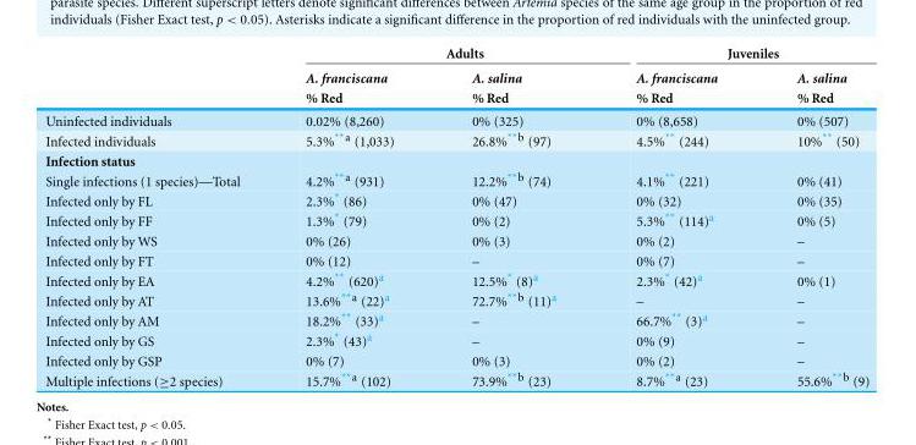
<table><thead><tr><td rowspan="3"></td><td colspan="2">Adults</td><td colspan="2">Juveniles</td></tr><tr><td rowspan="2">A. franciscana % Red</td><td rowspan="2">A. salina % Red</td><td rowspan="2">A. franciscana % Red</td><td rowspan="2">A. salina % Red</td></tr><tr></tr></thead><tbody><tr><td>Uninfected individuals</td><td>0.02% (8,260)</td><td>0% (325)</td><td>0% (8,658)</td><td>0% (507)</td></tr><tr><td>Infected individuals</td><td>5.3%<sup>**a</sup> (1,033)</td><td>26.8%<sup>**b</sup> (97)</td><td>4.5%** (244)</td><td>10%** (50)</td></tr><tr><td colspan="5">Infection status</td></tr><tr><td>Single infections (1 species)—Total</td><td>4.2%<sup>**a</sup> (931)</td><td>12.2%<sup>**b</sup> (74)</td><td>4.1%** (221)</td><td>0% (41)</td></tr><tr><td>Infected only by FL</td><td>2.3%* (86)</td><td>0% (47)</td><td>0% (32)</td><td>0% (35)</td></tr><tr><td>Infected only by FF</td><td>1.3%* (79)</td><td>0% (2)</td><td>5.3%** (114)<sup>a</sup></td><td>0% (5)</td></tr><tr><td>Infected only by WS</td><td>0% (26)</td><td>0% (3)</td><td>0% (2)</td><td>–</td></tr><tr><td>Infected only by FT</td><td>0% (12)</td><td>–</td><td>0% (7)</td><td>–</td></tr><tr><td>Infected only by EA</td><td>4.2%** (620)<sup>a</sup></td><td>12.5%* (8)<sup>a</sup></td><td>2.3%* (42)<sup>a</sup></td><td>0% (1)</td></tr><tr><td>Infected only by AT</td><td>13.6%<sup>**a</sup> (22)<sup>a</sup></td><td>72.7%<sup>**b</sup> (11)<sup>a</sup></td><td>–</td><td>–</td></tr><tr><td>Infected only by AM</td><td>18.2%** (33)<sup>a</sup></td><td>–</td><td>66.7%** (3)<sup>a</sup></td><td>–</td></tr><tr><td>Infected only by GS</td><td>2.3%* (43)<sup>a</sup></td><td>–</td><td>0% (9)</td><td>–</td></tr><tr><td>Infected only by GSP</td><td>0% (7)</td><td>0% (3)</td><td>0% (2)</td><td>–</td></tr><tr><td>Multiple infections (≥2 species)</td><td>15.7%<sup>**a</sup> (102)</td><td>73.9%<sup>**b</sup> (23)</td><td>8.7%<sup>**a</sup> (23)</td><td>55.6%<sup>**b</sup> (9)</td></tr></tbody></table>